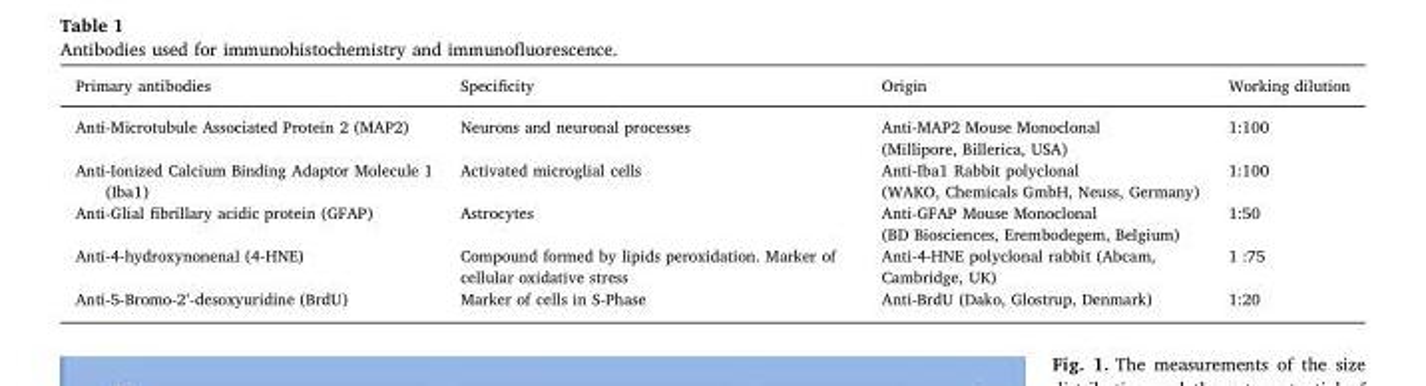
<table><thead><tr><td>Primary antibodies</td><td>Specificity</td><td>Origin</td><td>Working dilution</td></tr></thead><tbody><tr><td>Anti-Microtubule Associated Protein 2 (MAP2)</td><td>Neurons and neuronal processes</td><td>Anti-MAP2 Mouse Monoclonal (Millipore, Billerica, USA)</td><td>1:100</td></tr><tr><td>Anti-Ionized Calcium Binding Adaptor Molecule 1 (Iba1)</td><td>Activated microglial cells</td><td>Anti-Iba1 Rabbit polyclonal (WAKO, Chemicals GmbH, Neuss, Germany)</td><td>1:100</td></tr><tr><td>Anti-Glial fibrillary acidic protein (GFAP)</td><td>Astrocytes</td><td>Anti-GFAP Mouse Monoclonal (BD Biosciences, Erembodegem, Belgium)</td><td>1:50</td></tr><tr><td>Anti-4-hydroxynonenal (4-HNE)</td><td>Compound formed by lipids peroxidation. Marker of cellular oxidative stress</td><td>Anti-4-HNE polyclonal rabbit (Abcam, Cambridge, UK)</td><td>1 :75</td></tr><tr><td>Anti-5-Bromo-2’-desoxyuridine (BrdU)</td><td>Marker of cells in S-Phase</td><td>Anti-BrdU (Dako, Glostrup, Denmark)</td><td>1:20</td></tr></tbody></table>